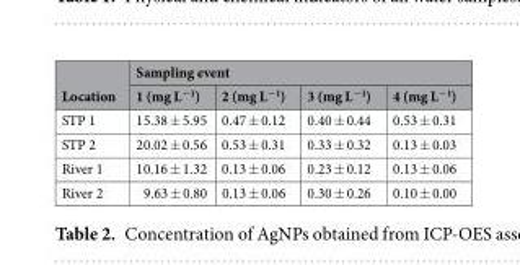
<table><thead><tr><td rowspan="2">Location</td><td colspan="4">Sampling event</td></tr><tr><td>1 (mg L<sup>−1</sup>)</td><td>2 (mg L<sup>−1</sup>)</td><td>3 (mg L<sup>−1</sup>)</td><td>4 (mg L<sup>−1</sup>)</td></tr></thead><tbody><tr><td>STP 1</td><td>15.38 ± 5.95</td><td>0.47 ± 0.12</td><td>0.40 ± 0.44</td><td>0.53 ± 0.31</td></tr><tr><td>STP 2</td><td>20.02 ± 0.56</td><td>0.53 ± 0.31</td><td>0.33 ± 0.32</td><td>0.13 ± 0.03</td></tr><tr><td>River 1</td><td>10.16 ± 1.32</td><td>0.13 ± 0.06</td><td>0.23 ± 0.12</td><td>0.13 ± 0.06</td></tr><tr><td>River 2</td><td>9.63 ± 0.80</td><td>0.13 ± 0.06</td><td>0.30 ± 0.26</td><td>0.10 ± 0.00</td></tr></tbody></table>